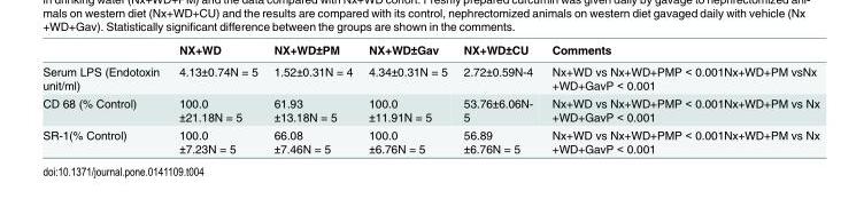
<table><thead><tr><td></td><td>NX+WD</td><td>NX+WD±PM</td><td>NX+WD±Gav</td><td>NX+WD±CU</td><td>Comments</td></tr></thead><tbody><tr><td>Serum LPS (Endotoxin unit/ml)</td><td>4.13±0.74N = 5</td><td>1.52±0.31N = 4</td><td>4.34±0.31N = 5</td><td>2.72±0.59N-4</td><td>Nx+WD vs Nx+WD+PMP &lt; 0.001Nx+WD+PM vsNx +WD+GavP &lt; 0.001</td></tr><tr><td>CD 68 (% Control)</td><td>100.0 ±21.18N = 5</td><td>61.93 ±13.18N = 5</td><td>100.0 ±11.91N = 5</td><td>53.76±6.06N- 5</td><td>Nx+WD vs Nx+WD+PMP &lt; 0.001Nx+WD+PM vs Nx +WD+GavP &lt; 0.001</td></tr><tr><td>SR-1(% Control)</td><td>100.0 ±7.23N = 5</td><td>66.08 ±7.46N = 5</td><td>100.0 ±6.76N = 5</td><td>56.89 ±6.76N = 5</td><td>Nx+WD vs Nx+WD+PMP &lt; 0.001Nx+WD+PM vs Nx +WD+GavP &lt; 0.001</td></tr></tbody></table>